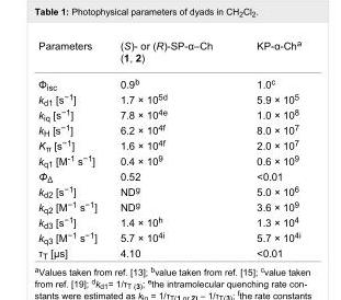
<table><tbody><tr><td>Parameters</td><td>(S)- or (R)-SP-α–Ch (1, 2)</td><td>KP-α-Ch<sup>a</sup></td></tr><tr><td>Φ<sub>isc</sub></td><td>0.9<sup>b</sup></td><td>1.0<sup>c</sup></td></tr><tr><td>k<sub>d1</sub> [s<sup>−1</sup>]</td><td>1.7 × 10<sup>5d</sup></td><td>5.9 × 10<sup>5</sup></td></tr><tr><td>k<sub>iq</sub> [s<sup>−1</sup>]</td><td>7.8 × 10<sup>4e</sup></td><td>1.0 × 10<sup>8</sup></td></tr><tr><td>k<sub>H</sub> [s<sup>−1</sup>]</td><td>6.2 × 10<sup>4f</sup></td><td>8.0 × 10<sup>7</sup></td></tr><tr><td>K<sub>π</sub> [s<sup>−1</sup>]</td><td>1.6 × 10<sup>4f</sup></td><td>2.0 × 10<sup>7</sup></td></tr><tr><td>k<sub>q1</sub> [M<sup>-1</sup> s<sup>−1</sup>]</td><td>0.4 × 10<sup>9</sup></td><td>0.6 × 10<sup>9</sup></td></tr><tr><td>Φ<sub>Δ</sub></td><td>0.52</td><td>&lt;0.01</td></tr><tr><td>k<sub>d2</sub> [s<sup>−1</sup>]</td><td>ND<sup>g</sup></td><td>5.0 × 10<sup>6</sup></td></tr><tr><td>k<sub>q2</sub> [M<sup>−1</sup> s<sup>−1</sup>]</td><td>ND<sup>g</sup></td><td>3.6 × 10<sup>9</sup></td></tr><tr><td>k<sub>d3</sub> [s<sup>−1</sup>]</td><td>1.4 × 10<sup>h</sup></td><td>1.3 × 10<sup>4</sup></td></tr><tr><td>k<sub>q3</sub> [M<sup>−1</sup> s<sup>−1</sup>]</td><td>5.7 × 10<sup>4i</sup></td><td>5.7 × 10<sup>4i</sup></td></tr><tr><td>τ<sub>T</sub> [μs]</td><td>4.10</td><td>&lt;0.01</td></tr></tbody></table>